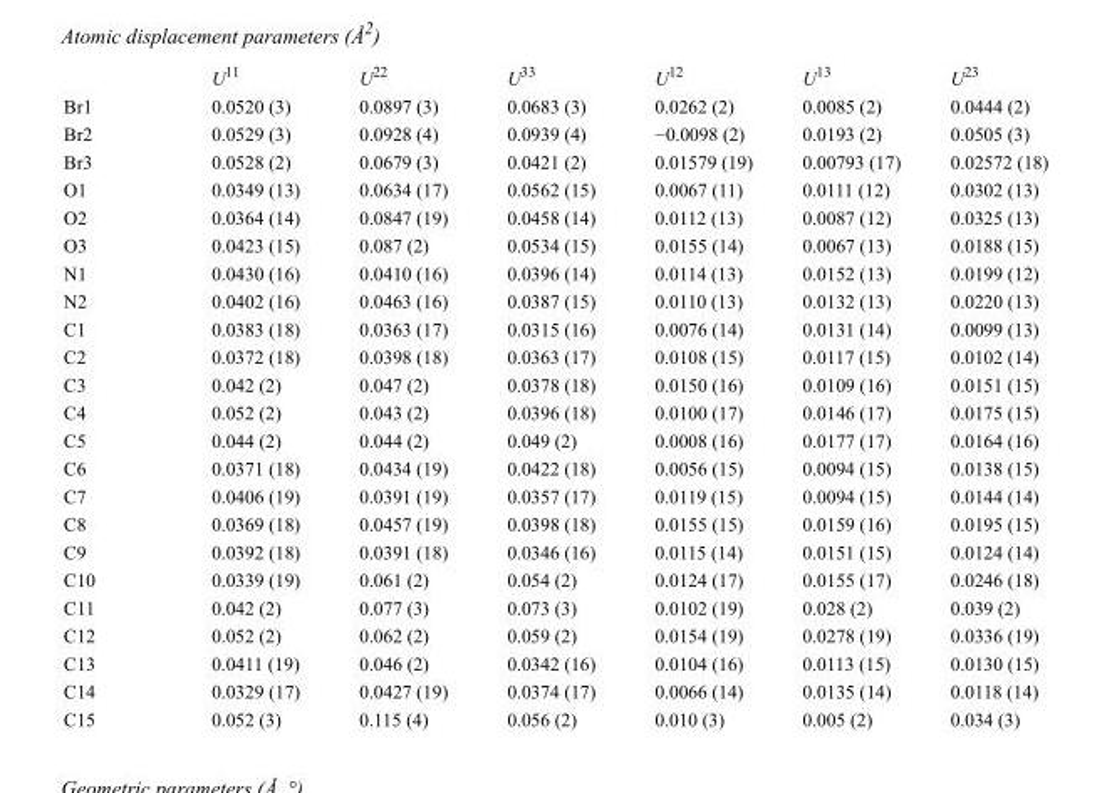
<table><thead><tr><td></td><td>U<sup>11</sup></td><td>U<sup>22</sup></td><td>U<sup>33</sup></td><td>U<sup>12</sup></td><td>U<sup>13</sup></td><td>U<sup>23</sup></td></tr></thead><tbody><tr><td>Br1</td><td>0.0520 (3)</td><td>0.0897 (3)</td><td>0.0683 (3)</td><td>0.0262 (2)</td><td>0.0085 (2)</td><td>0.0444 (2)</td></tr><tr><td>Br2</td><td>0.0529 (3)</td><td>0.0928 (4)</td><td>0.0939 (4)</td><td>−0.0098 (2)</td><td>0.0193 (2)</td><td>0.0505 (3)</td></tr><tr><td>Br3</td><td>0.0528 (2)</td><td>0.0679 (3)</td><td>0.0421 (2)</td><td>0.01579 (19)</td><td>0.00793 (17)</td><td>0.02572 (18)</td></tr><tr><td>O1</td><td>0.0349 (13)</td><td>0.0634 (17)</td><td>0.0562 (15)</td><td>0.0067 (11)</td><td>0.0111 (12)</td><td>0.0302 (13)</td></tr><tr><td>O2</td><td>0.0364 (14)</td><td>0.0847 (19)</td><td>0.0458 (14)</td><td>0.0112 (13)</td><td>0.0087 (12)</td><td>0.0325 (13)</td></tr><tr><td>O3</td><td>0.0423 (15)</td><td>0.087 (2)</td><td>0.0534 (15)</td><td>0.0155 (14)</td><td>0.0067 (13)</td><td>0.0188 (15)</td></tr><tr><td>N1</td><td>0.0430 (16)</td><td>0.0410 (16)</td><td>0.0396 (14)</td><td>0.0114 (13)</td><td>0.0152 (13)</td><td>0.0199 (12)</td></tr><tr><td>N2</td><td>0.0402 (16)</td><td>0.0463 (16)</td><td>0.0387 (15)</td><td>0.0110 (13)</td><td>0.0132 (13)</td><td>0.0220 (13)</td></tr><tr><td>C1</td><td>0.0383 (18)</td><td>0.0363 (17)</td><td>0.0315 (16)</td><td>0.0076 (14)</td><td>0.0131 (14)</td><td>0.0099 (13)</td></tr><tr><td>C2</td><td>0.0372 (18)</td><td>0.0398 (18)</td><td>0.0363 (17)</td><td>0.0108 (15)</td><td>0.0117 (15)</td><td>0.0102 (14)</td></tr><tr><td>C3</td><td>0.042 (2)</td><td>0.047 (2)</td><td>0.0378 (18)</td><td>0.0150 (16)</td><td>0.0109 (16)</td><td>0.0151 (15)</td></tr><tr><td>C4</td><td>0.052 (2)</td><td>0.043 (2)</td><td>0.0396 (18)</td><td>0.0100 (17)</td><td>0.0146 (17)</td><td>0.0175 (15)</td></tr><tr><td>C5</td><td>0.044 (2)</td><td>0.044 (2)</td><td>0.049 (2)</td><td>0.0008 (16)</td><td>0.0177 (17)</td><td>0.0164 (16)</td></tr><tr><td>C6</td><td>0.0371 (18)</td><td>0.0434 (19)</td><td>0.0422 (18)</td><td>0.0056 (15)</td><td>0.0094 (15)</td><td>0.0138 (15)</td></tr><tr><td>C7</td><td>0.0406 (19)</td><td>0.0391 (19)</td><td>0.0357 (17)</td><td>0.0119 (15)</td><td>0.0094 (15)</td><td>0.0144 (14)</td></tr><tr><td>C8</td><td>0.0369 (18)</td><td>0.0457 (19)</td><td>0.0398 (18)</td><td>0.0155 (15)</td><td>0.0159 (16)</td><td>0.0195 (15)</td></tr><tr><td>C9</td><td>0.0392 (18)</td><td>0.0391 (18)</td><td>0.0346 (16)</td><td>0.0115 (14)</td><td>0.0151 (15)</td><td>0.0124 (14)</td></tr><tr><td>C10</td><td>0.0339 (19)</td><td>0.061 (2)</td><td>0.054 (2)</td><td>0.0124 (17)</td><td>0.0155 (17)</td><td>0.0246 (18)</td></tr><tr><td>C11</td><td>0.042 (2)</td><td>0.077 (3)</td><td>0.073 (3)</td><td>0.0102 (19)</td><td>0.028 (2)</td><td>0.039 (2)</td></tr><tr><td>C12</td><td>0.052 (2)</td><td>0.062 (2)</td><td>0.059 (2)</td><td>0.0154 (19)</td><td>0.0278 (19)</td><td>0.0336 (19)</td></tr><tr><td>C13</td><td>0.0411 (19)</td><td>0.046 (2)</td><td>0.0342 (16)</td><td>0.0104 (16)</td><td>0.0113 (15)</td><td>0.0130 (15)</td></tr><tr><td>C14</td><td>0.0329 (17)</td><td>0.0427 (19)</td><td>0.0374 (17)</td><td>0.0066 (14)</td><td>0.0135 (14)</td><td>0.0118 (14)</td></tr><tr><td>C15</td><td>0.052 (3)</td><td>0.115 (4)</td><td>0.056 (2)</td><td>0.010 (3)</td><td>0.005 (2)</td><td>0.034 (3)</td></tr></tbody></table>